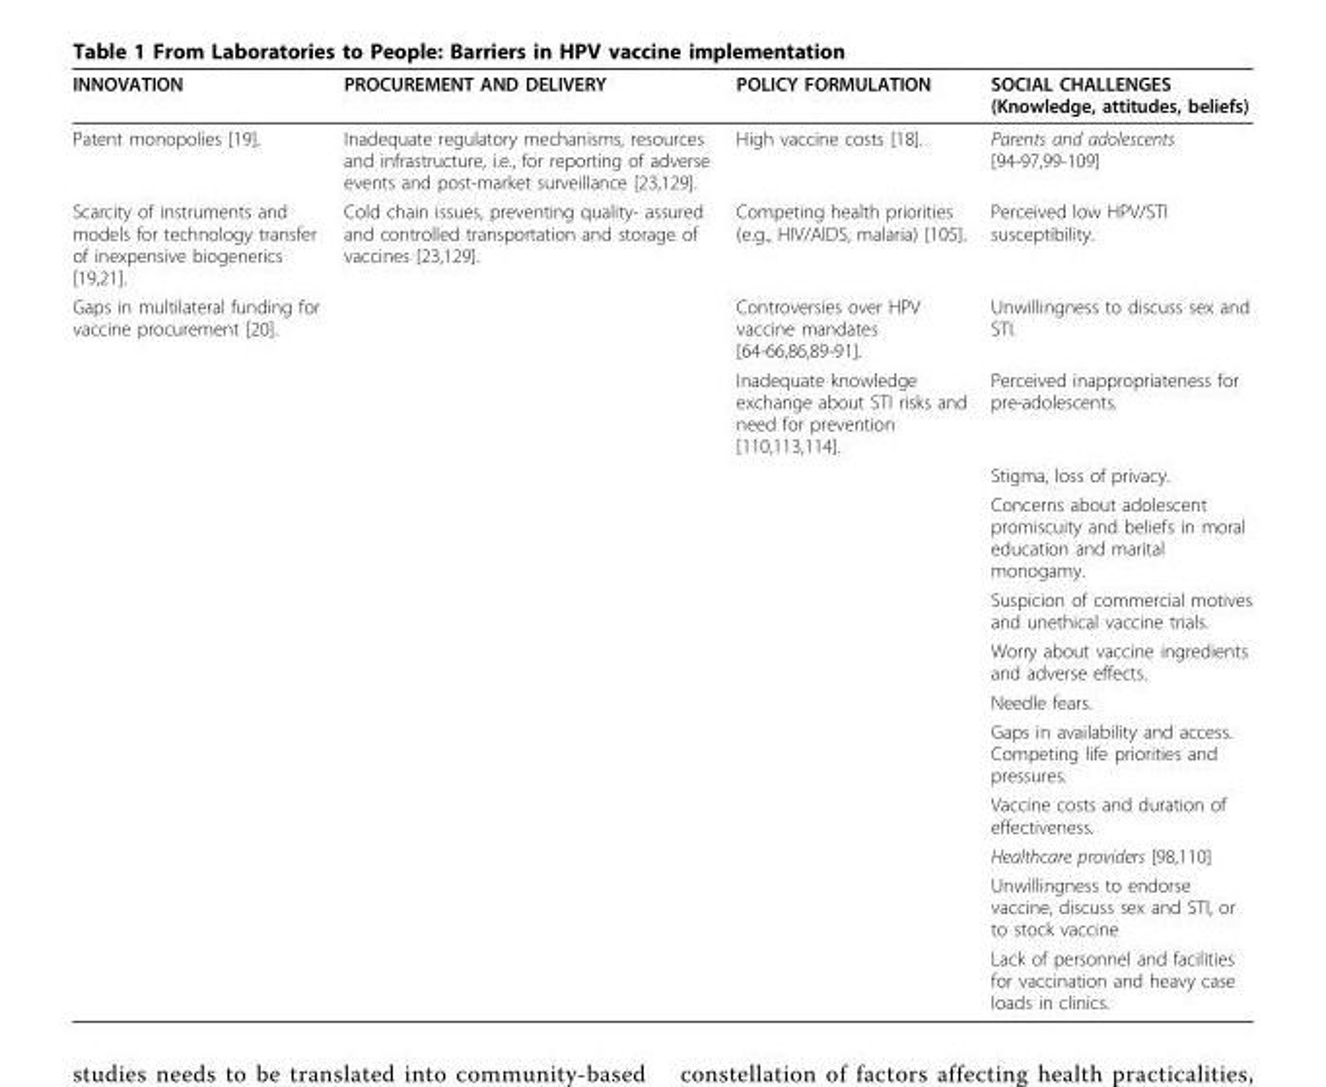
<table><thead><tr><td>INNOVATION</td><td>PROCUREMENT AND DELIVERY</td><td>POLICY FORMULATION</td><td>SOCIAL CHALLENGES (Knowledge, attitudes, beliefs)</td></tr></thead><tbody><tr><td>Patent monopolies [19].</td><td>Inadequate regulatory mechanisms, resources and infrastructure, i.e., for reporting of adverse events and post-market surveillance [23,129].</td><td>High vaccine costs [18].</td><td>Parents and adolescents [94-97,99-109]</td></tr><tr><td>Scarcity of instruments and models for technology transfer of inexpensive biogenerics [19,21].</td><td>Cold chain issues, preventing quality- assured and controlled transportation and storage of vaccines [23,129].</td><td>Competing health priorities (e.g., HIV/AIDS, malaria) [105].</td><td>Perceived low HPV/STI susceptibility.</td></tr><tr><td rowspan="12">Gaps in multilateral funding for vaccine procurement [20].</td><td></td><td>Controversies over HPV vaccine mandates [64-66,86,89-91].</td><td>Unwillingness to discuss sex and STI.</td></tr><tr><td></td><td>Inadequate knowledge exchange about STI risks and need for prevention [110,113,114].</td><td>Perceived inappropriateness for pre-adolescents.</td></tr><tr><td></td><td></td><td>Stigma, loss of privacy.</td></tr><tr><td></td><td></td><td>Concerns about adolescent promiscuity and beliefs in moral education and marital monogamy.</td></tr><tr><td></td><td></td><td>Suspicion of commercial motives and unethical vaccine trials.</td></tr><tr><td></td><td></td><td>Worry about vaccine ingredients and adverse effects.</td></tr><tr><td></td><td></td><td>Needle fears.</td></tr><tr><td></td><td></td><td>Gaps in availability and access. Competing life priorities and pressures.</td></tr><tr><td></td><td></td><td>Vaccine costs and duration of effectiveness.</td></tr><tr><td></td><td></td><td>Healthcare providers [98,110]</td></tr><tr><td></td><td></td><td>Unwillingness to endorse vaccine, discuss sex and STI, or to stock vaccine</td></tr><tr><td></td><td></td><td>Lack of personnel and facilities for vaccination and heavy case loads in clinics.</td></tr></tbody></table>